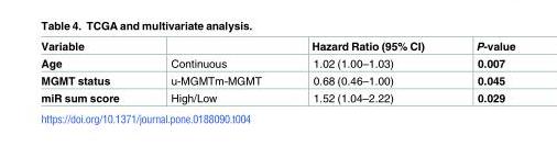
<table><thead><tr><td>Variable</td><td></td><td>Hazard Ratio (95% CI)</td><td>P-value</td></tr></thead><tbody><tr><td>Age</td><td>Continuous</td><td>1.02 (1.00–1.03)</td><td>0.007</td></tr><tr><td>MGMT status</td><td>u-MGMTm-MGMT</td><td>0.68 (0.46–1.00)</td><td>0.045</td></tr><tr><td>miR sum score</td><td>High/Low</td><td>1.52 (1.04–2.22)</td><td>0.029</td></tr></tbody></table>